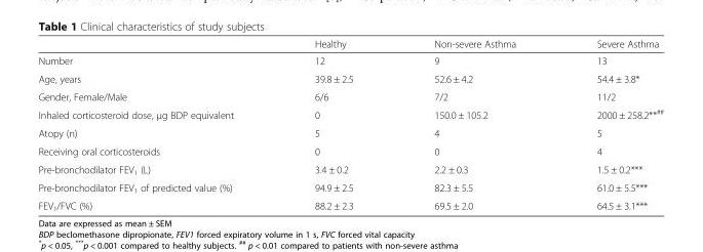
<table><thead><tr><td></td><td>Healthy</td><td>Non-severe Asthma</td><td>Severe Asthma</td></tr></thead><tbody><tr><td>Number</td><td>12</td><td>9</td><td>13</td></tr><tr><td>Age, years</td><td>39.8 ± 2.5</td><td>52.6 ± 4.2</td><td>54.4 ± 3.8*</td></tr><tr><td>Gender, Female/Male</td><td>6/6</td><td>7/2</td><td>11/2</td></tr><tr><td>Inhaled corticosteroid dose, μg BDP equivalent</td><td>0</td><td>150.0 ± 105.2</td><td>2000 ± 258.2**<sup>##</sup></td></tr><tr><td>Atopy (n)</td><td>5</td><td>4</td><td>5</td></tr><tr><td>Receiving oral corticosteroids</td><td>0</td><td>0</td><td>4</td></tr><tr><td>Pre-bronchodilator FEV<sub>1</sub> (L)</td><td>3.4 ± 0.2</td><td>2.2 ± 0.3</td><td>1.5 ± 0.2***</td></tr><tr><td>Pre-bronchodilator FEV<sub>1</sub> of predicted value (%)</td><td>94.9 ± 2.5</td><td>82.3 ± 5.5</td><td>61.0 ± 5.5***</td></tr><tr><td>FEV<sub>1</sub>/FVC (%)</td><td>88.2 ± 2.3</td><td>69.5 ± 2.0</td><td>64.5 ± 3.1***</td></tr></tbody></table>